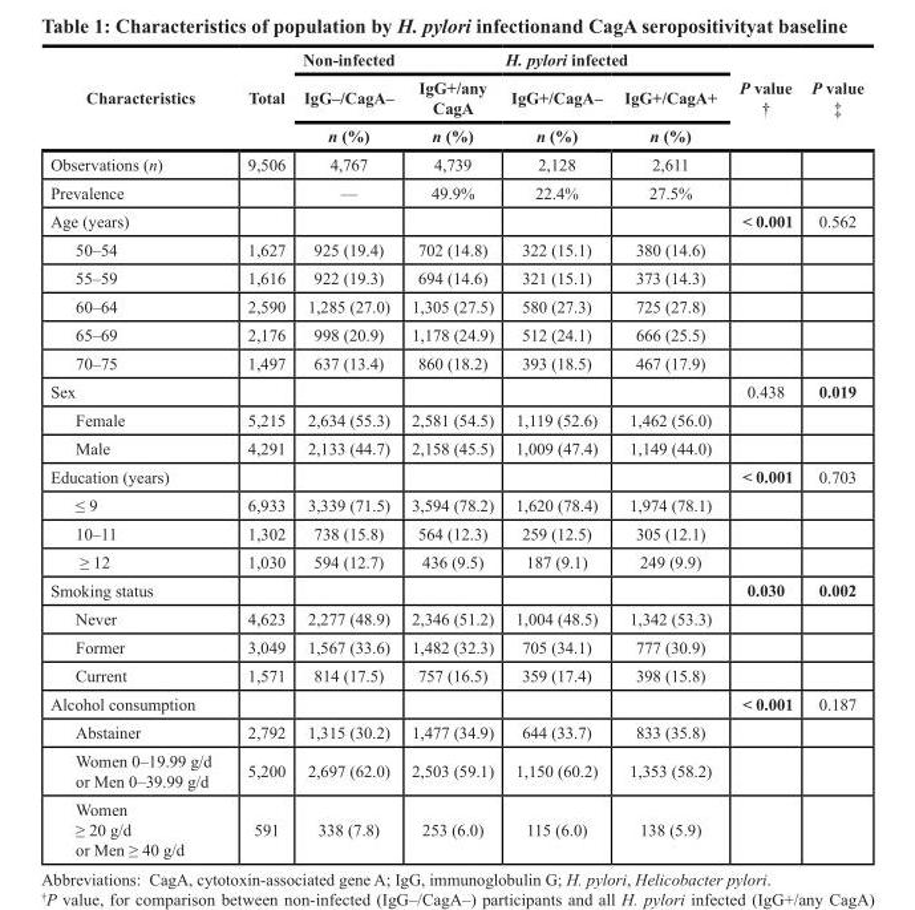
<table><thead><tr><td rowspan="3">Characteristics</td><td rowspan="3">Total</td><td colspan="2">Non-infected</td><td colspan="2">H. pylori infected</td><td rowspan="3">P value †</td><td rowspan="3">P value ‡</td></tr><tr><td rowspan="2">IgG–/CagA– n (%)</td><td rowspan="2">IgG+/any CagA n (%)</td><td rowspan="2">IgG+/CagA– n (%)</td><td rowspan="2">IgG+/CagA+ n (%)</td></tr><tr></tr></thead><tbody><tr><td>Observations (n)</td><td>9,506</td><td>4,767</td><td>4,739</td><td>2,128</td><td>2,611</td><td></td><td></td></tr><tr><td>Prevalence</td><td></td><td>—</td><td>49.9%</td><td>22.4%</td><td>27.5%</td><td></td><td></td></tr><tr><td>Age (years)</td><td></td><td></td><td></td><td></td><td></td><td>&lt; 0.001</td><td>0.562</td></tr><tr><td>50–54</td><td>1,627</td><td>925 (19.4)</td><td>702 (14.8)</td><td>322 (15.1)</td><td>380 (14.6)</td><td></td><td></td></tr><tr><td>55–59</td><td>1,616</td><td>922 (19.3)</td><td>694 (14.6)</td><td>321 (15.1)</td><td>373 (14.3)</td><td></td><td></td></tr><tr><td>60–64</td><td>2,590</td><td>1,285 (27.0)</td><td>1,305 (27.5)</td><td>580 (27.3)</td><td>725 (27.8)</td><td></td><td></td></tr><tr><td>65–69</td><td>2,176</td><td>998 (20.9)</td><td>1,178 (24.9)</td><td>512 (24.1)</td><td>666 (25.5)</td><td></td><td></td></tr><tr><td>70–75</td><td>1,497</td><td>637 (13.4)</td><td>860 (18.2)</td><td>393 (18.5)</td><td>467 (17.9)</td><td></td><td></td></tr><tr><td>Sex</td><td></td><td></td><td></td><td></td><td></td><td>0.438</td><td>0.019</td></tr><tr><td>Female</td><td>5,215</td><td>2,634 (55.3)</td><td>2,581 (54.5)</td><td>1,119 (52.6)</td><td>1,462 (56.0)</td><td></td><td></td></tr><tr><td>Male</td><td>4,291</td><td>2,133 (44.7)</td><td>2,158 (45.5)</td><td>1,009 (47.4)</td><td>1,149 (44.0)</td><td></td><td></td></tr><tr><td>Education (years)</td><td></td><td></td><td></td><td></td><td></td><td>&lt; 0.001</td><td>0.703</td></tr><tr><td>≤ 9</td><td>6,933</td><td>3,339 (71.5)</td><td>3,594 (78.2)</td><td>1,620 (78.4)</td><td>1,974 (78.1)</td><td></td><td></td></tr><tr><td>10–11</td><td>1,302</td><td>738 (15.8)</td><td>564 (12.3)</td><td>259 (12.5)</td><td>305 (12.1)</td><td></td><td></td></tr><tr><td>≥ 12</td><td>1,030</td><td>594 (12.7)</td><td>436 (9.5)</td><td>187 (9.1)</td><td>249 (9.9)</td><td></td><td></td></tr><tr><td>Smoking status</td><td></td><td></td><td></td><td></td><td></td><td>0.030</td><td>0.002</td></tr><tr><td>Never</td><td>4,623</td><td>2,277 (48.9)</td><td>2,346 (51.2)</td><td>1,004 (48.5)</td><td>1,342 (53.3)</td><td></td><td></td></tr><tr><td>Former</td><td>3,049</td><td>1,567 (33.6)</td><td>1,482 (32.3)</td><td>705 (34.1)</td><td>777 (30.9)</td><td></td><td></td></tr><tr><td>Current</td><td>1,571</td><td>814 (17.5)</td><td>757 (16.5)</td><td>359 (17.4)</td><td>398 (15.8)</td><td></td><td></td></tr><tr><td>Alcohol consumption</td><td></td><td></td><td></td><td></td><td></td><td>&lt; 0.001</td><td>0.187</td></tr><tr><td>Abstainer</td><td>2,792</td><td>1,315 (30.2)</td><td>1,477 (34.9)</td><td>644 (33.7)</td><td>833 (35.8)</td><td></td><td></td></tr><tr><td>Women 0–19.99 g/d or Men 0–39.99 g/d</td><td>5,200</td><td>2,697 (62.0)</td><td>2,503 (59.1)</td><td>1,150 (60.2)</td><td>1,353 (58.2)</td><td></td><td></td></tr><tr><td>Women ≥ 20 g/d or Men ≥ 40 g/d</td><td>591</td><td>338 (7.8)</td><td>253 (6.0)</td><td>115 (6.0)</td><td>138 (5.9)</td><td></td><td></td></tr></tbody></table>